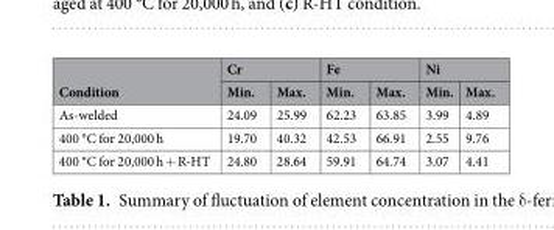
<table><thead><tr><td rowspan="2">Condition</td><td colspan="2">Cr</td><td colspan="2">Fe</td><td colspan="2">Ni</td></tr><tr><td>Min.</td><td>Max.</td><td>Min.</td><td>Max.</td><td>Min.</td><td>Max.</td></tr></thead><tbody><tr><td>As-welded</td><td>24.09</td><td>25.99</td><td>62.23</td><td>63.85</td><td>3.99</td><td>4.89</td></tr><tr><td>400 °C for 20,000 h</td><td>19.70</td><td>40.32</td><td>42.53</td><td>66.91</td><td>2.55</td><td>9.76</td></tr><tr><td>400 °C for 20,000 h + R-HT</td><td>24.80</td><td>28.64</td><td>59.91</td><td>64.74</td><td>3.07</td><td>4.41</td></tr></tbody></table>